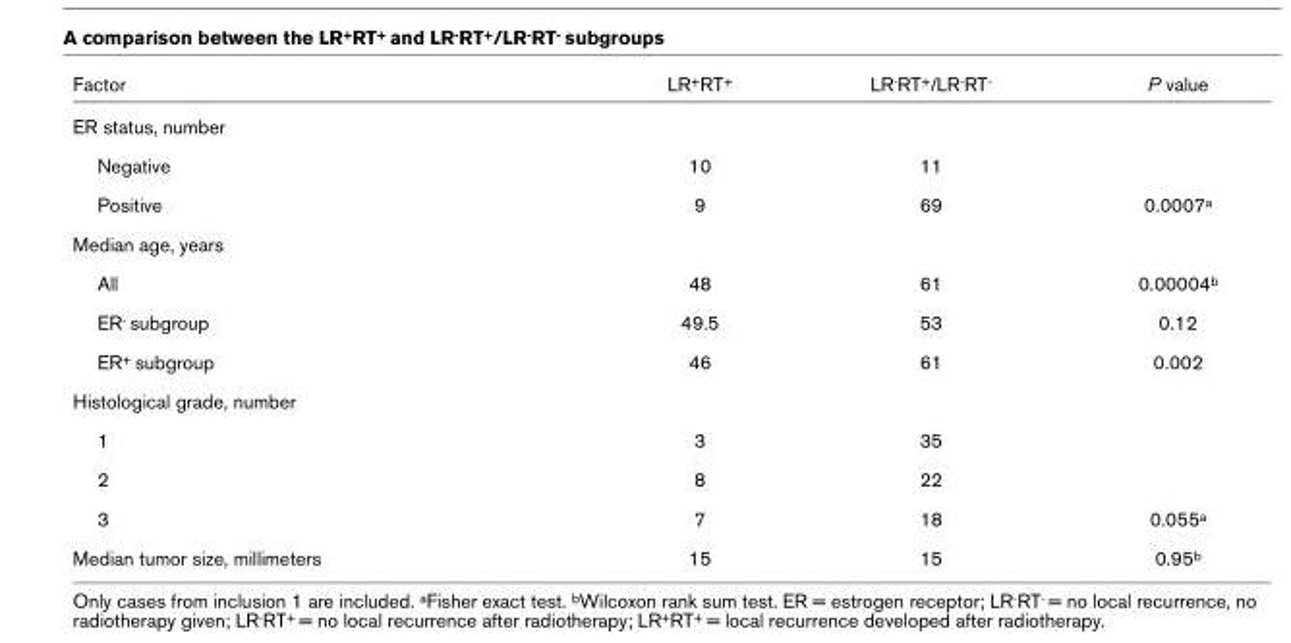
<table><thead><tr><td>Factor</td><td>LR<sup>+</sup>RT<sup>+</sup></td><td>LR<sup>-</sup>RT<sup>+</sup>/LR<sup>-</sup>RT<sup>-</sup></td><td>P value</td></tr></thead><tbody><tr><td colspan="4">ER status, number</td></tr><tr><td>Negative</td><td>10</td><td>11</td><td></td></tr><tr><td>Positive</td><td>9</td><td>69</td><td>0.0007<sup>a</sup></td></tr><tr><td colspan="4">Median age, years</td></tr><tr><td>All</td><td>48</td><td>61</td><td>0.00004<sup>b</sup></td></tr><tr><td>ER<sup>-</sup> subgroup</td><td>49.5</td><td>53</td><td>0.12</td></tr><tr><td>ER<sup>+</sup> subgroup</td><td>46</td><td>61</td><td>0.002</td></tr><tr><td colspan="4">Histological grade, number</td></tr><tr><td>1</td><td>3</td><td>35</td><td></td></tr><tr><td>2</td><td>8</td><td>22</td><td></td></tr><tr><td>3</td><td>7</td><td>18</td><td>0.055<sup>a</sup></td></tr><tr><td>Median tumor size, millimeters</td><td>15</td><td>15</td><td>0.95<sup>b</sup></td></tr></tbody></table>